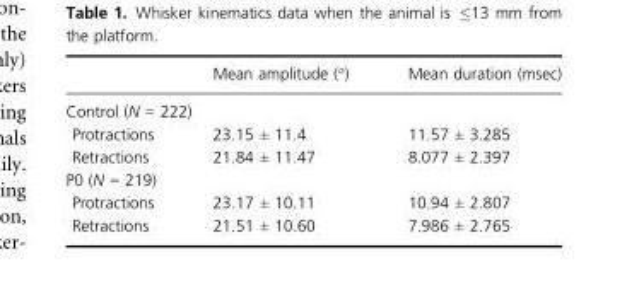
<table><thead><tr><td></td><td>Mean amplitude (°)</td><td>Mean duration (msec)</td></tr></thead><tbody><tr><td colspan="3">Control (N = 222)</td></tr><tr><td>Protractions</td><td>23.15 ± 11.4</td><td>11.57 ± 3.285</td></tr><tr><td>Retractions</td><td>21.84 ± 11.47</td><td>8.077 ± 2.397</td></tr><tr><td colspan="3">P0 (N = 219)</td></tr><tr><td>Protractions</td><td>23.17 ± 10.11</td><td>10.94 ± 2.807</td></tr><tr><td>Retractions</td><td>21.51 ± 10.60</td><td>7.986 ± 2.765</td></tr></tbody></table>